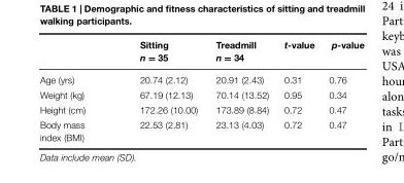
<table><thead><tr><td></td><td>Sitting n = 35</td><td>Treadmill n = 34</td><td>t-value</td><td>p-value</td></tr></thead><tbody><tr><td>Age (yrs)</td><td>20.74 (2.12)</td><td>20.91 (2.43)</td><td>0.31</td><td>0.76</td></tr><tr><td>Weight (kg)</td><td>67.19 (12.13)</td><td>70.14 (13.52)</td><td>0.95</td><td>0.34</td></tr><tr><td>Height (cm)</td><td>172.26 (10.00)</td><td>173.89 (8.84)</td><td>0.72</td><td>0.47</td></tr><tr><td>Body mass index (BMI)</td><td>22.53 (2.81)</td><td>23.13 (4.03)</td><td>0.72</td><td>0.47</td></tr></tbody></table>